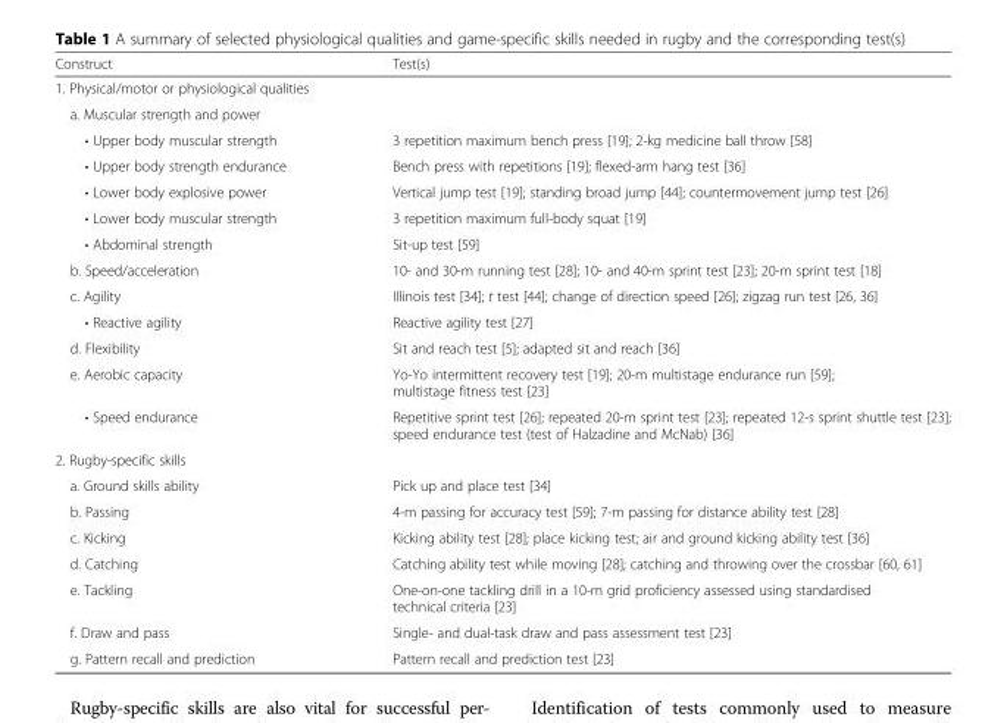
<table><thead><tr><td>Construct</td><td>Test(s)</td></tr></thead><tbody><tr><td colspan="2">1. Physical/motor or physiological qualities</td></tr><tr><td colspan="2">a. Muscular strength and power</td></tr><tr><td>• Upper body muscular strength</td><td>3 repetition maximum bench press [19]; 2-kg medicine ball throw [58]</td></tr><tr><td>• Upper body strength endurance</td><td>Bench press with repetitions [19]; flexed-arm hang test [36]</td></tr><tr><td>• Lower body explosive power</td><td>Vertical jump test [19]; standing broad jump [44]; countermovement jump test [26]</td></tr><tr><td>• Lower body muscular strength</td><td>3 repetition maximum full-body squat [19]</td></tr><tr><td>• Abdominal strength</td><td>Sit-up test [59]</td></tr><tr><td>b. Speed/acceleration</td><td>10- and 30-m running test [28]; 10- and 40-m sprint test [23]; 20-m sprint test [18]</td></tr><tr><td>c. Agility</td><td>Illinois test [34]; t test [44]; change of direction speed [26]; zigzag run test [26, 36]</td></tr><tr><td>• Reactive agility</td><td>Reactive agility test [27]</td></tr><tr><td>d. Flexibility</td><td>Sit and reach test [5]; adapted sit and reach [36]</td></tr><tr><td>e. Aerobic capacity</td><td>Yo-Yo intermittent recovery test [19]; 20-m multistage endurance run [59]; multistage fitness test [23]</td></tr><tr><td>• Speed endurance</td><td>Repetitive sprint test [26]; repeated 20-m sprint test [23]; repeated 12-s sprint shuttle test [23]; speed endurance test (test of Halzadine and McNab) [36]</td></tr><tr><td colspan="2">2. Rugby-specific skills</td></tr><tr><td>a. Ground skills ability</td><td>Pick up and place test [34]</td></tr><tr><td>b. Passing</td><td>4-m passing for accuracy test [59]; 7-m passing for distance ability test [28]</td></tr><tr><td>c. Kicking</td><td>Kicking ability test [28]; place kicking test; air and ground kicking ability test [36]</td></tr><tr><td>d. Catching</td><td>Catching ability test while moving [28]; catching and throwing over the crossbar [60, 61]</td></tr><tr><td>e. Tackling</td><td>One-on-one tackling drill in a 10-m grid proficiency assessed using standardised technical criteria [23]</td></tr><tr><td>f. Draw and pass</td><td>Single- and dual-task draw and pass assessment test [23]</td></tr><tr><td>g. Pattern recall and prediction</td><td>Pattern recall and prediction test [23]</td></tr></tbody></table>